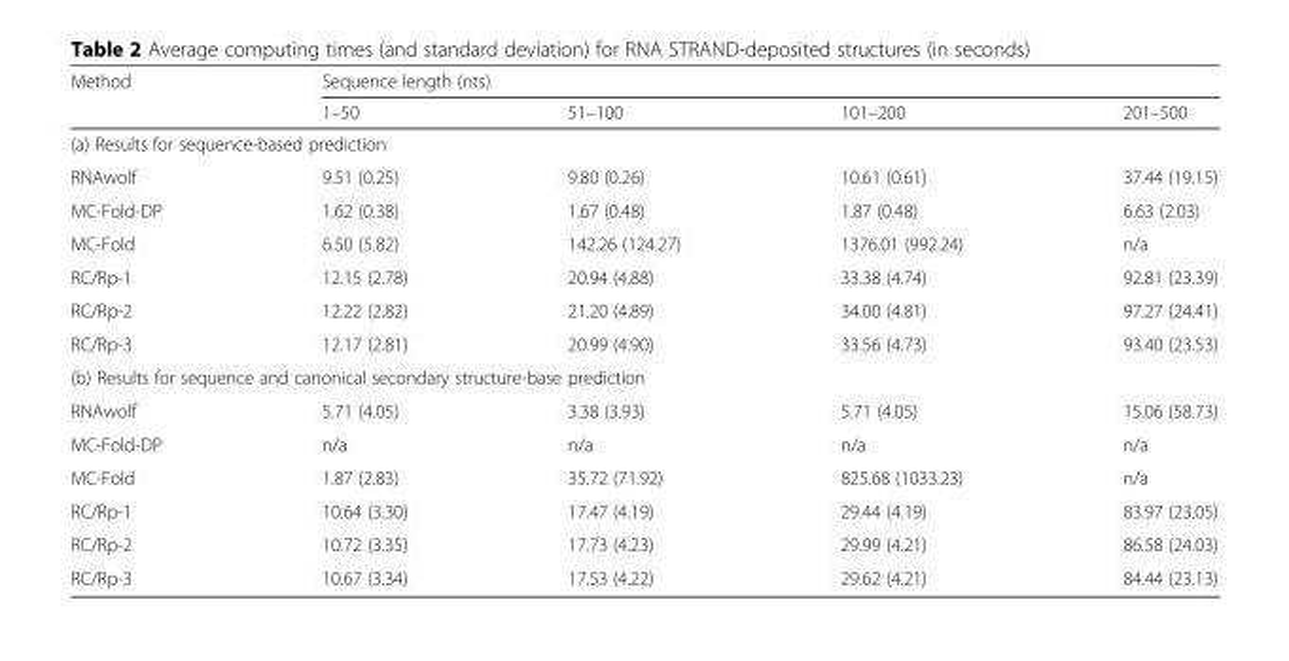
<table><thead><tr><td rowspan="2">Method</td><td colspan="4">Sequence length (nts)</td></tr><tr><td>1–50</td><td>51–100</td><td>101–200</td><td>201–500</td></tr></thead><tbody><tr><td colspan="5">(a) Results for sequence-based prediction</td></tr><tr><td>RNAwolf</td><td>9.51 (0.25)</td><td>9.80 (0.26)</td><td>10.61 (0.61)</td><td>37.44 (19.15)</td></tr><tr><td>MC-Fold-DP</td><td>1.62 (0.38)</td><td>1.67 (0.48)</td><td>1.87 (0.48)</td><td>6.63 (2.03)</td></tr><tr><td>MC-Fold</td><td>6.50 (5.82)</td><td>142.26 (124.27)</td><td>1376.01 (992.24)</td><td>n/a</td></tr><tr><td>RC/Rp-1</td><td>12.15 (2.78)</td><td>20.94 (4.88)</td><td>33.38 (4.74)</td><td>92.81 (23.39)</td></tr><tr><td>RC/Rp-2</td><td>12.22 (2.82)</td><td>21.20 (4.89)</td><td>34.00 (4.81)</td><td>97.27 (24.41)</td></tr><tr><td>RC/Rp-3</td><td>12.17 (2.81)</td><td>20.99 (4.90)</td><td>33.56 (4.73)</td><td>93.40 (23.53)</td></tr><tr><td colspan="5">(b) Results for sequence and canonical secondary structure-base prediction</td></tr><tr><td>RNAwolf</td><td>5.71 (4.05)</td><td>3.38 (3.93)</td><td>5.71 (4.05)</td><td>15.06 (58.73)</td></tr><tr><td>MC-Fold-DP</td><td>n/a</td><td>n/a</td><td>n/a</td><td>n/a</td></tr><tr><td>MC-Fold</td><td>1.87 (2.83)</td><td>35.72 (71.92)</td><td>825.68 (1033.23)</td><td>n/a</td></tr><tr><td>RC/Rp-1</td><td>10.64 (3.30)</td><td>17.47 (4.19)</td><td>29.44 (4.19)</td><td>83.97 (23.05)</td></tr><tr><td>RC/Rp-2</td><td>10.72 (3.35)</td><td>17.73 (4.23)</td><td>29.99 (4.21)</td><td>86.58 (24.03)</td></tr><tr><td>RC/Rp-3</td><td>10.67 (3.34)</td><td>17.53 (4.22)</td><td>29.62 (4.21)</td><td>84.44 (23.13)</td></tr></tbody></table>